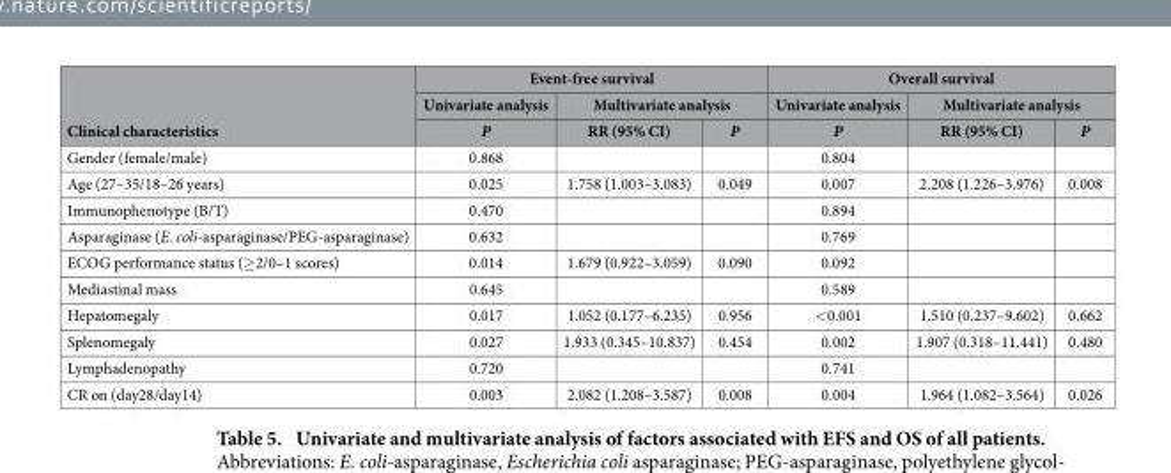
<table><thead><tr><td rowspan="3">Clinical characteristics</td><td colspan="3">Event-free survival</td><td colspan="3">Overall survival</td></tr><tr><td rowspan="2">Univariate analysis P</td><td colspan="2">Multivariate analysis</td><td rowspan="2">Univariate analysis P</td><td colspan="2">Multivariate analysis</td></tr><tr><td>RR (95% CI)</td><td>P</td><td>RR (95% CI)</td><td>P</td></tr></thead><tbody><tr><td>Gender (female/male)</td><td>0.868</td><td></td><td></td><td>0.804</td><td></td><td></td></tr><tr><td>Age (27–35/18–26 years)</td><td>0.025</td><td>1.758 (1.003–3.083)</td><td>0.049</td><td>0.007</td><td>2.208 (1.226–3.976)</td><td>0.008</td></tr><tr><td>Immunophenotype (B/T)</td><td>0.470</td><td></td><td></td><td>0.894</td><td></td><td></td></tr><tr><td>Asparaginase (E. coli-asparaginase/PEG-asparaginase)</td><td>0.632</td><td></td><td></td><td>0.769</td><td></td><td></td></tr><tr><td>ECOG performance status (≥ 2/0–1 scores)</td><td>0.014</td><td>1.679 (0.922–3.059)</td><td>0.090</td><td>0.092</td><td></td><td></td></tr><tr><td>Mediastinal mass</td><td>0.645</td><td></td><td></td><td>0.589</td><td></td><td></td></tr><tr><td>Hepatomegaly</td><td>0.017</td><td>1.052 (0.177–6.235)</td><td>0.956</td><td>&lt; 0.001</td><td>1.510 (0.237–9.602)</td><td>0.662</td></tr><tr><td>Splenomegaly</td><td>0.027</td><td>1.933 (0.345–10.837)</td><td>0.454</td><td>0.002</td><td>1.907 (0.318–11.441)</td><td>0.480</td></tr><tr><td>Lymphadenopathy</td><td>0.720</td><td></td><td></td><td>0.741</td><td></td><td></td></tr><tr><td>CR on (day28/day14)</td><td>0.003</td><td>2.082 (1.208–3.587)</td><td>0.008</td><td>0.004</td><td>1.964 (1.082–3.564)</td><td>0.026</td></tr></tbody></table>